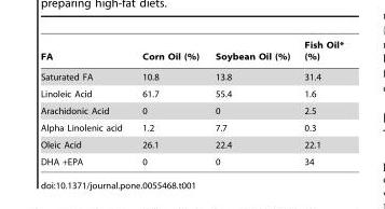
<table><thead><tr><td>FA</td><td>Corn Oil (%)</td><td>Soybean Oil (%)</td><td>Fish Oil* (%)</td></tr></thead><tbody><tr><td>Saturated FA</td><td>10.8</td><td>13.8</td><td>31.4</td></tr><tr><td>Linoleic Acid</td><td>61.7</td><td>55.4</td><td>1.6</td></tr><tr><td>Arachidonic Acid</td><td>0</td><td>0</td><td>2.5</td></tr><tr><td>Alpha Linolenic acid</td><td>1.2</td><td>7.7</td><td>0.3</td></tr><tr><td>Oleic Acid</td><td>26.1</td><td>22.4</td><td>22.1</td></tr><tr><td>DHA +EPA</td><td>0</td><td>0</td><td>34</td></tr></tbody></table>